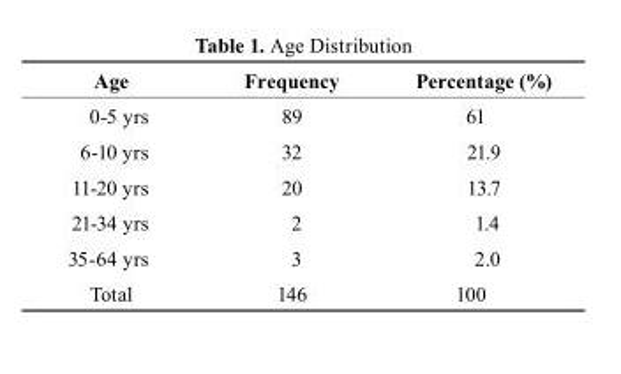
<table><thead><tr><td>Age</td><td>Frequency</td><td>Percentage (%)</td></tr></thead><tbody><tr><td>0-5 yrs</td><td>89</td><td>61</td></tr><tr><td>6-10 yrs</td><td>32</td><td>21.9</td></tr><tr><td>11-20 yrs</td><td>20</td><td>13.7</td></tr><tr><td>21-34 yrs</td><td>2</td><td>1.4</td></tr><tr><td>35-64 yrs</td><td>3</td><td>2.0</td></tr><tr><td>Total</td><td>146</td><td>100</td></tr></tbody></table>